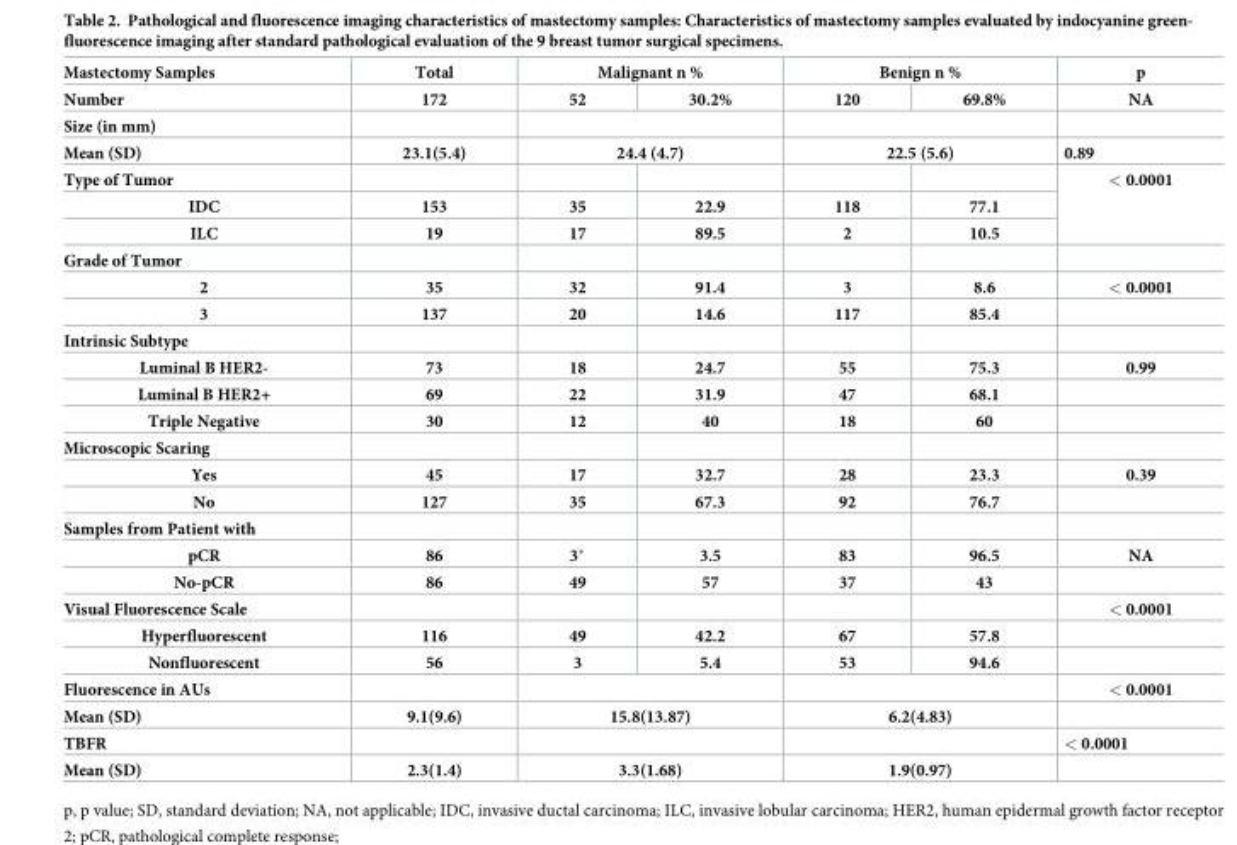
<table><thead><tr><td rowspan="2">Mastectomy Samples Number</td><td rowspan="2">Total 172</td><td colspan="2">Malignant n %</td><td colspan="2">Benign n %</td><td rowspan="2">p NA</td></tr><tr><td>52</td><td>30.2%</td><td>120</td><td>69.8%</td></tr></thead><tbody><tr><td colspan="7">Size (in mm)</td></tr><tr><td>Mean (SD)</td><td>23.1(5.4)</td><td colspan="2">24.4 (4.7)</td><td colspan="2">22.5 (5.6)</td><td>0.89</td></tr><tr><td colspan="6">Type of Tumor</td><td rowspan="3">&lt; 0.0001</td></tr><tr><td>IDC</td><td>153</td><td>35</td><td>22.9</td><td>118</td><td>77.1</td></tr><tr><td>ILC</td><td>19</td><td>17</td><td>89.5</td><td>2</td><td>10.5</td></tr><tr><td colspan="7">Grade of Tumor</td></tr><tr><td>2</td><td>35</td><td>32</td><td>91.4</td><td>3</td><td>8.6</td><td>&lt; 0.0001</td></tr><tr><td>3</td><td>137</td><td>20</td><td>14.6</td><td>117</td><td>85.4</td><td></td></tr><tr><td colspan="7">Intrinsic Subtype</td></tr><tr><td>Luminal B HER2-</td><td>73</td><td>18</td><td>24.7</td><td>55</td><td>75.3</td><td>0.99</td></tr><tr><td>Luminal B HER2+</td><td>69</td><td>22</td><td>31.9</td><td>47</td><td>68.1</td><td></td></tr><tr><td>Triple Negative</td><td>30</td><td>12</td><td>40</td><td>18</td><td>60</td><td></td></tr><tr><td colspan="7">Microscopic Scaring</td></tr><tr><td>Yes</td><td>45</td><td>17</td><td>32.7</td><td>28</td><td>23.3</td><td>0.39</td></tr><tr><td>No</td><td>127</td><td>35</td><td>67.3</td><td>92</td><td>76.7</td><td></td></tr><tr><td colspan="7">Samples from Patient with</td></tr><tr><td>pCR</td><td>86</td><td>3*</td><td>3.5</td><td>83</td><td>96.5</td><td>NA</td></tr><tr><td>No-pCR</td><td>86</td><td>49</td><td>57</td><td>37</td><td>43</td><td></td></tr><tr><td>Visual Fluorescence Scale</td><td></td><td></td><td></td><td></td><td></td><td>&lt; 0.0001</td></tr><tr><td>Hyperfluorescent</td><td>116</td><td>49</td><td>42.2</td><td>67</td><td>57.8</td><td></td></tr><tr><td>Nonfluorescent</td><td>56</td><td>3</td><td>5.4</td><td>53</td><td>94.6</td><td></td></tr><tr><td>Fluorescence in AUs</td><td></td><td colspan="2"></td><td colspan="2"></td><td>&lt; 0.0001</td></tr><tr><td>Mean (SD)</td><td>9.1(9.6)</td><td colspan="2">15.8(13.87)</td><td colspan="2">6.2(4.83)</td><td></td></tr><tr><td>TBFR</td><td></td><td colspan="2"></td><td colspan="2"></td><td>&lt; 0.0001</td></tr><tr><td>Mean (SD)</td><td>2.3(1.4)</td><td colspan="2">3.3(1.68)</td><td colspan="2">1.9(0.97)</td><td></td></tr></tbody></table>